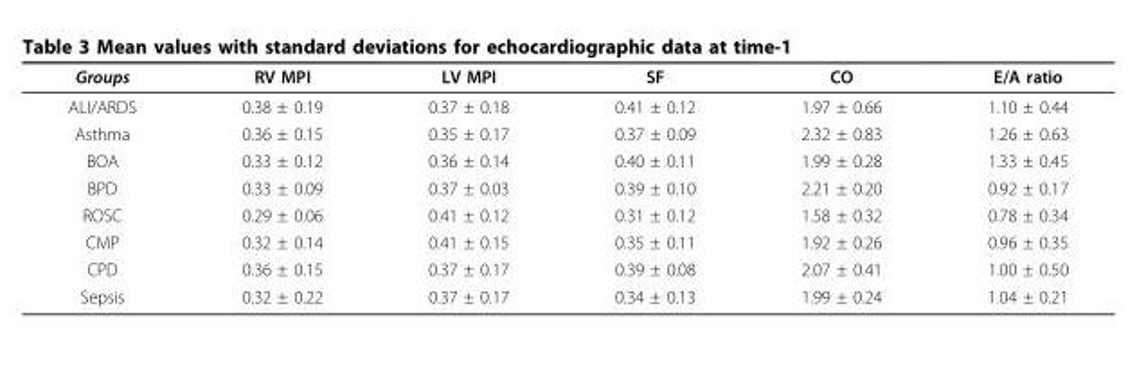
<table><thead><tr><td>Groups</td><td>RV MPI</td><td>LV MPI</td><td>SF</td><td>CO</td><td>E/A ratio</td></tr></thead><tbody><tr><td>ALI/ARDS</td><td>0.38 ± 0.19</td><td>0.37 ± 0.18</td><td>0.41 ± 0.12</td><td>1.97 ± 0.66</td><td>1.10 ± 0.44</td></tr><tr><td>Asthma</td><td>0.36 ± 0.15</td><td>0.35 ± 0.17</td><td>0.37 ± 0.09</td><td>2.32 ± 0.83</td><td>1.26 ± 0.63</td></tr><tr><td>BOA</td><td>0.33 ± 0.12</td><td>0.36 ± 0.14</td><td>0.40 ± 0.11</td><td>1.99 ± 0.28</td><td>1.33 ± 0.45</td></tr><tr><td>BPD</td><td>0.33 ± 0.09</td><td>0.37 ± 0.03</td><td>0.39 ± 0.10</td><td>2.21 ± 0.20</td><td>0.92 ± 0.17</td></tr><tr><td>ROSC</td><td>0.29 ± 0.06</td><td>0.41 ± 0.12</td><td>0.31 ± 0.12</td><td>1.58 ± 0.32</td><td>0.78 ± 0.34</td></tr><tr><td>CMP</td><td>0.32 ± 0.14</td><td>0.41 ± 0.15</td><td>0.35 ± 0.11</td><td>1.92 ± 0.26</td><td>0.96 ± 0.35</td></tr><tr><td>CPD</td><td>0.36 ± 0.15</td><td>0.37 ± 0.17</td><td>0.39 ± 0.08</td><td>2.07 ± 0.41</td><td>1.00 ± 0.50</td></tr><tr><td>Sepsis</td><td>0.32 ± 0.22</td><td>0.37 ± 0.17</td><td>0.34 ± 0.13</td><td>1.99 ± 0.24</td><td>1.04 ± 0.21</td></tr></tbody></table>